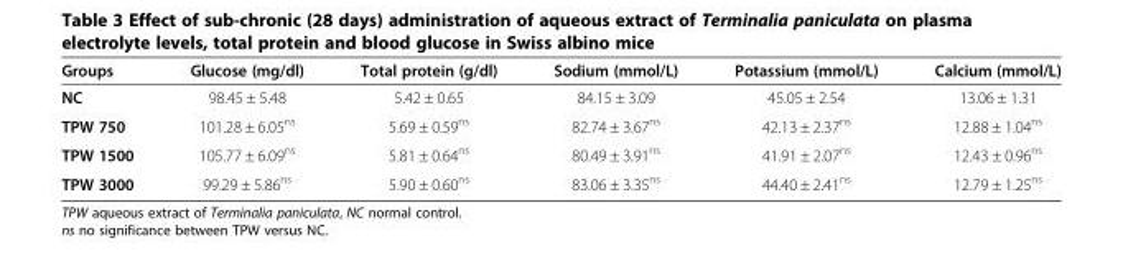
<table><thead><tr><td>Groups</td><td>Glucose (mg/dl)</td><td>Total protein (g/dl)</td><td>Sodium (mmol/L)</td><td>Potassium (mmol/L)</td><td>Calcium (mmol/L)</td></tr></thead><tbody><tr><td>NC</td><td>98.45 ± 5.48</td><td>5.42 ± 0.65</td><td>84.15 ± 3.09</td><td>45.05 ± 2.54</td><td>13.06 ± 1.31</td></tr><tr><td>TPW 750</td><td>101.28 ± 6.05<sup>ns</sup></td><td>5.69 ± 0.59<sup>ns</sup></td><td>82.74 ± 3.67<sup>ns</sup></td><td>42.13 ± 2.37<sup>ns</sup></td><td>12.88 ± 1.04<sup>ns</sup></td></tr><tr><td>TPW 1500</td><td>105.77 ± 6.09<sup>ns</sup></td><td>5.81 ± 0.64<sup>ns</sup></td><td>80.49 ± 3.91<sup>ns</sup></td><td>41.91 ± 2.07<sup>ns</sup></td><td>12.43 ± 0.96<sup>ns</sup></td></tr><tr><td>TPW 3000</td><td>99.29 ± 5.86<sup>ns</sup></td><td>5.90 ± 0.60<sup>ns</sup></td><td>83.06 ± 3.35<sup>ns</sup></td><td>44.40 ± 2.41<sup>ns</sup></td><td>12.79 ± 1.25<sup>ns</sup></td></tr></tbody></table>